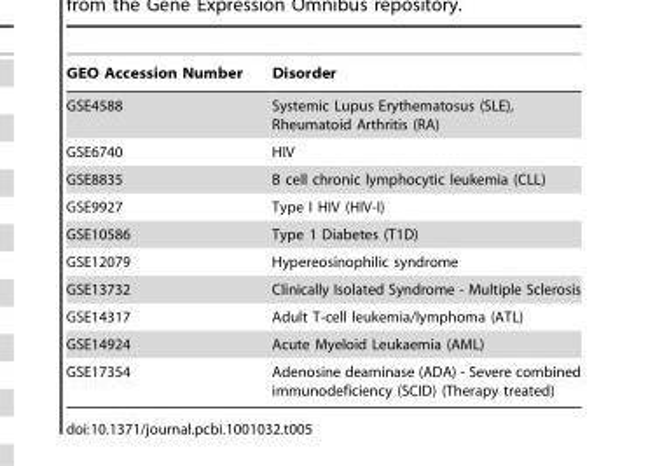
<table><thead><tr><td>GEO Accession Number</td><td>Disorder</td></tr></thead><tbody><tr><td>GSE4588</td><td>Systemic Lupus Erythematosus (SLE), Rheumatoid Arthritis (RA)</td></tr><tr><td>GSE6740</td><td>HIV</td></tr><tr><td>GSE8835</td><td>B cell chronic lymphocytic leukemia (CLL)</td></tr><tr><td>GSE9927</td><td>Type I HIV (HIV-I)</td></tr><tr><td>GSE10586</td><td>Type 1 Diabetes (T1D)</td></tr><tr><td>GSE12079</td><td>Hypereosinophilic syndrome</td></tr><tr><td>GSE13732</td><td>Clinically Isolated Syndrome - Multiple Sclerosis</td></tr><tr><td>GSE14317</td><td>Adult T-cell leukemia/lymphoma (ATL)</td></tr><tr><td>GSE14924</td><td>Acute Myeloid Leukaemia (AML)</td></tr><tr><td>GSE17354</td><td>Adenosine deaminase (ADA) - Severe combined immunodeficiency (SCID) (Therapy treated)</td></tr></tbody></table>